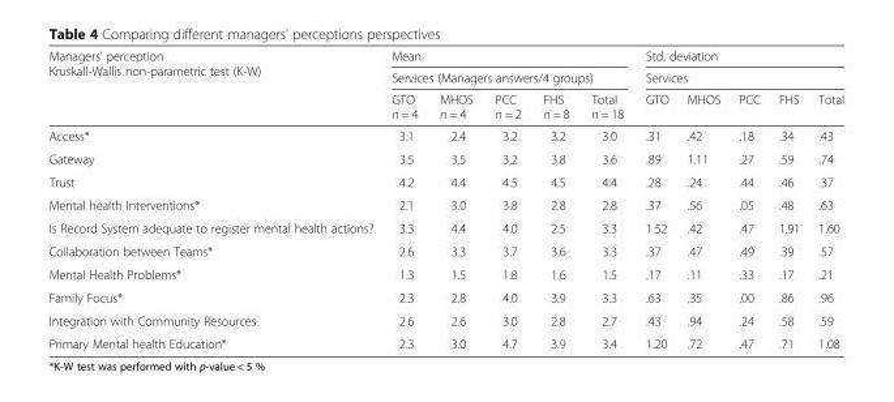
<table><thead><tr><td rowspan="3">Managers’ perception Kruskall-Wallis non-parametric test (K-W)</td><td rowspan="2" colspan="5">Mean Services (Managers answers/4 groups)</td><td rowspan="2" colspan="5">Std. deviation Services</td></tr><tr></tr><tr><td>GTO n = 4</td><td>MHOS n = 4</td><td>PCC n = 2</td><td>FHS n = 8</td><td>Total n = 18</td><td>GTO</td><td>MHOS</td><td>PCC</td><td>FHS</td><td>Total</td></tr></thead><tbody><tr><td>Access*</td><td>3.1</td><td>2.4</td><td>3.2</td><td>3.2</td><td>3.0</td><td>.31</td><td>.42</td><td>.18</td><td>.34</td><td>.43</td></tr><tr><td>Gateway</td><td>3.5</td><td>3.5</td><td>3.2</td><td>3.8</td><td>3.6</td><td>.89</td><td>1.11</td><td>.27</td><td>.59</td><td>.74</td></tr><tr><td>Trust</td><td>4.2</td><td>4.4</td><td>4.5</td><td>4.5</td><td>4.4</td><td>.28</td><td>.24</td><td>.44</td><td>.46</td><td>.37</td></tr><tr><td>Mental health Interventions*</td><td>2.1</td><td>3.0</td><td>3.8</td><td>2.8</td><td>2.8</td><td>.37</td><td>.56</td><td>.05</td><td>.48</td><td>.63</td></tr><tr><td>Is Record System adequate to register mental health actions?</td><td>3.3</td><td>4.4</td><td>4.0</td><td>2.5</td><td>3.3</td><td>1.52</td><td>.42</td><td>.47</td><td>1.91</td><td>1.60</td></tr><tr><td>Collaboration between Teams*</td><td>2.6</td><td>3.3</td><td>3.7</td><td>3.6</td><td>3.3</td><td>.37</td><td>.47</td><td>.49</td><td>.39</td><td>.57</td></tr><tr><td>Mental Health Problems*</td><td>1.3</td><td>1.5</td><td>1.8</td><td>1.6</td><td>1.5</td><td>.17</td><td>.11</td><td>.33</td><td>.17</td><td>.21</td></tr><tr><td>Family Focus*</td><td>2.3</td><td>2.8</td><td>4.0</td><td>3.9</td><td>3.3</td><td>.63</td><td>.35</td><td>.00</td><td>.86</td><td>.96</td></tr><tr><td>Integration with Community Resources</td><td>2.6</td><td>2.6</td><td>3.0</td><td>2.8</td><td>2.7</td><td>.43</td><td>.94</td><td>.24</td><td>.58</td><td>.59</td></tr><tr><td>Primary Mental health Education*</td><td>2.3</td><td>3.0</td><td>4.7</td><td>3.9</td><td>3.4</td><td>1.20</td><td>.72</td><td>.47</td><td>.71</td><td>1.08</td></tr></tbody></table>